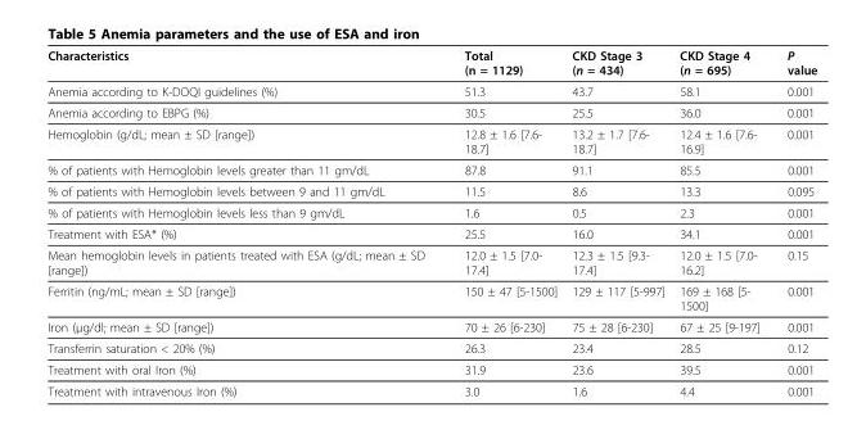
<table><thead><tr><td>Characteristics</td><td>Total (n = 1129)</td><td>CKD Stage 3 (n = 434)</td><td>CKD Stage 4 (n = 695)</td><td>P value</td></tr></thead><tbody><tr><td>Anemia according to K-DOQI guidelines (%)</td><td>51.3</td><td>43.7</td><td>58.1</td><td>0.001</td></tr><tr><td>Anemia according to EBPG (%)</td><td>30.5</td><td>25.5</td><td>36.0</td><td>0.001</td></tr><tr><td>Hemoglobin (g/dL; mean ± SD [range])</td><td>12.8 ± 1.6 [7.6- 18.7]</td><td>13.2 ± 1.7 [7.6- 18.7]</td><td>12.4 ± 1.6 [7.6- 16.9]</td><td>0.001</td></tr><tr><td>% of patients with Hemoglobin levels greater than 11 gm/dL</td><td>87.8</td><td>91.1</td><td>85.5</td><td>0.001</td></tr><tr><td>% of patients with Hemoglobin levels between 9 and 11 gm/dL</td><td>11.5</td><td>8.6</td><td>13.3</td><td>0.095</td></tr><tr><td>% of patients with Hemoglobin levels less than 9 gm/dL</td><td>1.6</td><td>0.5</td><td>2.3</td><td>0.001</td></tr><tr><td>Treatment with ESA* (%)</td><td>25.5</td><td>16.0</td><td>34.1</td><td>0.001</td></tr><tr><td>Mean hemoglobin levels in patients treated with ESA (g/dL; mean ± SD [range])</td><td>12.0 ± 1.5 [7.0- 17.4]</td><td>12.3 ± 1.5 [9.3- 17.4]</td><td>12.0 ± 1.5 [7.0- 16.2]</td><td>0.15</td></tr><tr><td>Ferritin (ng/mL; mean ± SD [range])</td><td>150 ± 47 [5-1500]</td><td>129 ± 117 [5-997]</td><td>169 ± 168 [5- 1500]</td><td>0.001</td></tr><tr><td>Iron (μg/dl; mean ± SD [range])</td><td>70 ± 26 [6-230]</td><td>75 ± 28 [6-230]</td><td>67 ± 25 [9-197]</td><td>0.001</td></tr><tr><td>Transferrin saturation &lt; 20% (%)</td><td>26.3</td><td>23.4</td><td>28.5</td><td>0.12</td></tr><tr><td>Treatment with oral Iron (%)</td><td>31.9</td><td>23.6</td><td>39.5</td><td>0.001</td></tr><tr><td>Treatment with intravenous Iron (%)</td><td>3.0</td><td>1.6</td><td>4.4</td><td>0.001</td></tr></tbody></table>